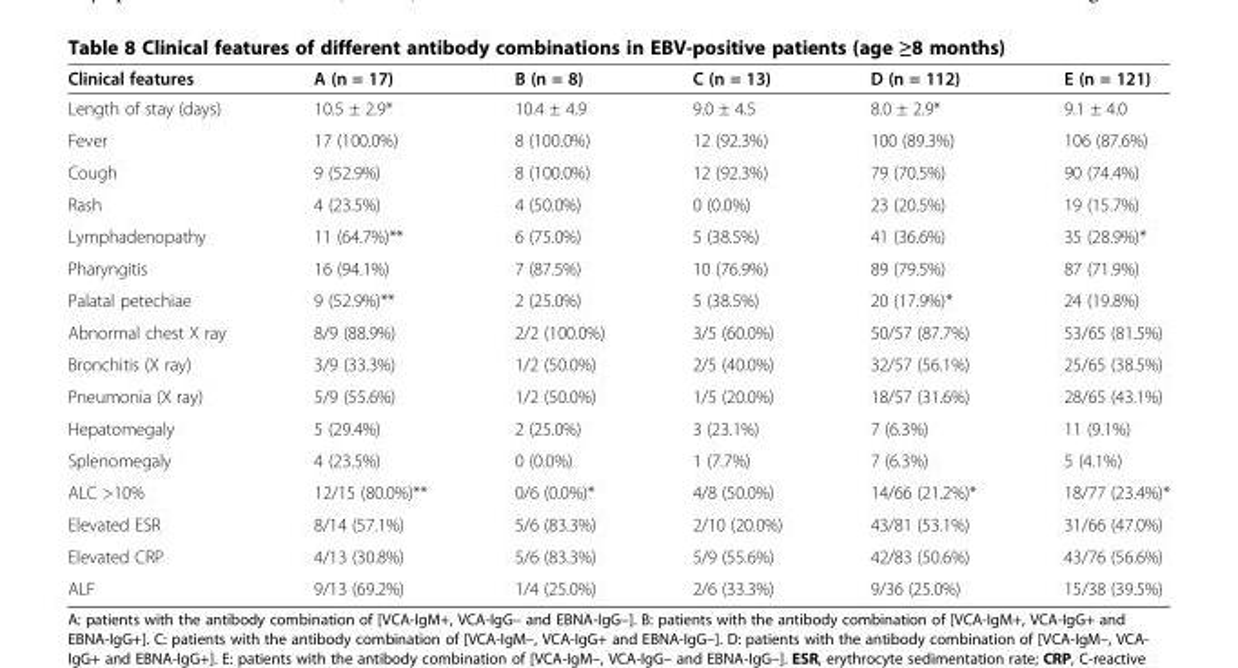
<table><thead><tr><td>Clinical features</td><td>A (n = 17)</td><td>B (n = 8)</td><td>C (n = 13)</td><td>D (n = 112)</td><td>E (n = 121)</td></tr></thead><tbody><tr><td>Length of stay (days)</td><td>10.5 ± 2.9*</td><td>10.4 ± 4.9</td><td>9.0 ± 4.5</td><td>8.0 ± 2.9*</td><td>9.1 ± 4.0</td></tr><tr><td>Fever</td><td>17 (100.0%)</td><td>8 (100.0%)</td><td>12 (92.3%)</td><td>100 (89.3%)</td><td>106 (87.6%)</td></tr><tr><td>Cough</td><td>9 (52.9%)</td><td>8 (100.0%)</td><td>12 (92.3%)</td><td>79 (70.5%)</td><td>90 (74.4%)</td></tr><tr><td>Rash</td><td>4 (23.5%)</td><td>4 (50.0%)</td><td>0 (0.0%)</td><td>23 (20.5%)</td><td>19 (15.7%)</td></tr><tr><td>Lymphadenopathy</td><td>11 (64.7%)**</td><td>6 (75.0%)</td><td>5 (38.5%)</td><td>41 (36.6%)</td><td>35 (28.9%)*</td></tr><tr><td>Pharyngitis</td><td>16 (94.1%)</td><td>7 (87.5%)</td><td>10 (76.9%)</td><td>89 (79.5%)</td><td>87 (71.9%)</td></tr><tr><td>Palatal petechiae</td><td>9 (52.9%)**</td><td>2 (25.0%)</td><td>5 (38.5%)</td><td>20 (17.9%)*</td><td>24 (19.8%)</td></tr><tr><td>Abnormal chest X ray</td><td>8/9 (88.9%)</td><td>2/2 (100.0%)</td><td>3/5 (60.0%)</td><td>50/57 (87.7%)</td><td>53/65 (81.5%)</td></tr><tr><td>Bronchitis (X ray)</td><td>3/9 (33.3%)</td><td>1/2 (50.0%)</td><td>2/5 (40.0%)</td><td>32/57 (56.1%)</td><td>25/65 (38.5%)</td></tr><tr><td>Pneumonia (X ray)</td><td>5/9 (55.6%)</td><td>1/2 (50.0%)</td><td>1/5 (20.0%)</td><td>18/57 (31.6%)</td><td>28/65 (43.1%)</td></tr><tr><td>Hepatomegaly</td><td>5 (29.4%)</td><td>2 (25.0%)</td><td>3 (23.1%)</td><td>7 (6.3%)</td><td>11 (9.1%)</td></tr><tr><td>Splenomegaly</td><td>4 (23.5%)</td><td>0 (0.0%)</td><td>1 (7.7%)</td><td>7 (6.3%)</td><td>5 (4.1%)</td></tr><tr><td>ALC &gt;10%</td><td>12/15 (80.0%)**</td><td>0/6 (0.0%)*</td><td>4/8 (50.0%)</td><td>14/66 (21.2%)*</td><td>18/77 (23.4%)*</td></tr><tr><td>Elevated ESR</td><td>8/14 (57.1%)</td><td>5/6 (83.3%)</td><td>2/10 (20.0%)</td><td>43/81 (53.1%)</td><td>31/66 (47.0%)</td></tr><tr><td>Elevated CRP</td><td>4/13 (30.8%)</td><td>5/6 (83.3%)</td><td>5/9 (55.6%)</td><td>42/83 (50.6%)</td><td>43/76 (56.6%)</td></tr><tr><td>ALF</td><td>9/13 (69.2%)</td><td>1/4 (25.0%)</td><td>2/6 (33.3%)</td><td>9/36 (25.0%)</td><td>15/38 (39.5%)</td></tr></tbody></table>